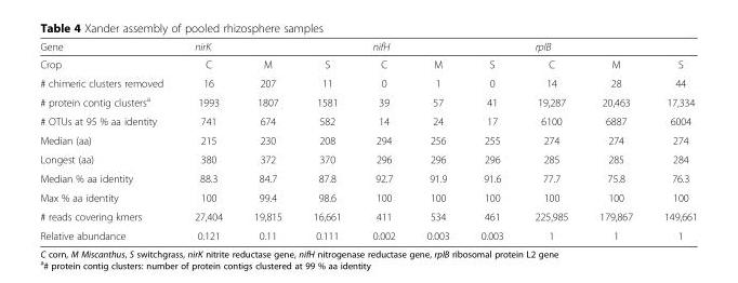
<table><thead><tr><td rowspan="2">Gene Crop</td><td colspan="3">nirK</td><td colspan="3">nifH</td><td colspan="3">rplB</td></tr><tr><td>C</td><td>M</td><td>S</td><td>C</td><td>M</td><td>S</td><td>C</td><td>M</td><td>S</td></tr></thead><tbody><tr><td># chimeric clusters removed</td><td>16</td><td>207</td><td>11</td><td>0</td><td>1</td><td>0</td><td>14</td><td>28</td><td>44</td></tr><tr><td># protein contig clusters<sup>a</sup></td><td>1993</td><td>1807</td><td>1581</td><td>39</td><td>57</td><td>41</td><td>19,287</td><td>20,463</td><td>17,334</td></tr><tr><td># OTUs at 95 % aa identity</td><td>741</td><td>674</td><td>582</td><td>14</td><td>24</td><td>17</td><td>6100</td><td>6887</td><td>6004</td></tr><tr><td>Median (aa)</td><td>215</td><td>230</td><td>208</td><td>294</td><td>256</td><td>255</td><td>274</td><td>274</td><td>274</td></tr><tr><td>Longest (aa)</td><td>380</td><td>372</td><td>370</td><td>296</td><td>296</td><td>296</td><td>285</td><td>285</td><td>284</td></tr><tr><td>Median % aa identity</td><td>88.3</td><td>84.7</td><td>87.8</td><td>92.7</td><td>91.9</td><td>91.6</td><td>77.7</td><td>75.8</td><td>76.3</td></tr><tr><td>Max % aa identity</td><td>100</td><td>99.4</td><td>98.6</td><td>100</td><td>100</td><td>100</td><td>100</td><td>100</td><td>100</td></tr><tr><td># reads covering kmers</td><td>27,404</td><td>19,815</td><td>16,661</td><td>411</td><td>534</td><td>461</td><td>225,985</td><td>179,867</td><td>149,661</td></tr><tr><td>Relative abundance</td><td>0.121</td><td>0.11</td><td>0.111</td><td>0.002</td><td>0.003</td><td>0.003</td><td>1</td><td>1</td><td>1</td></tr></tbody></table>